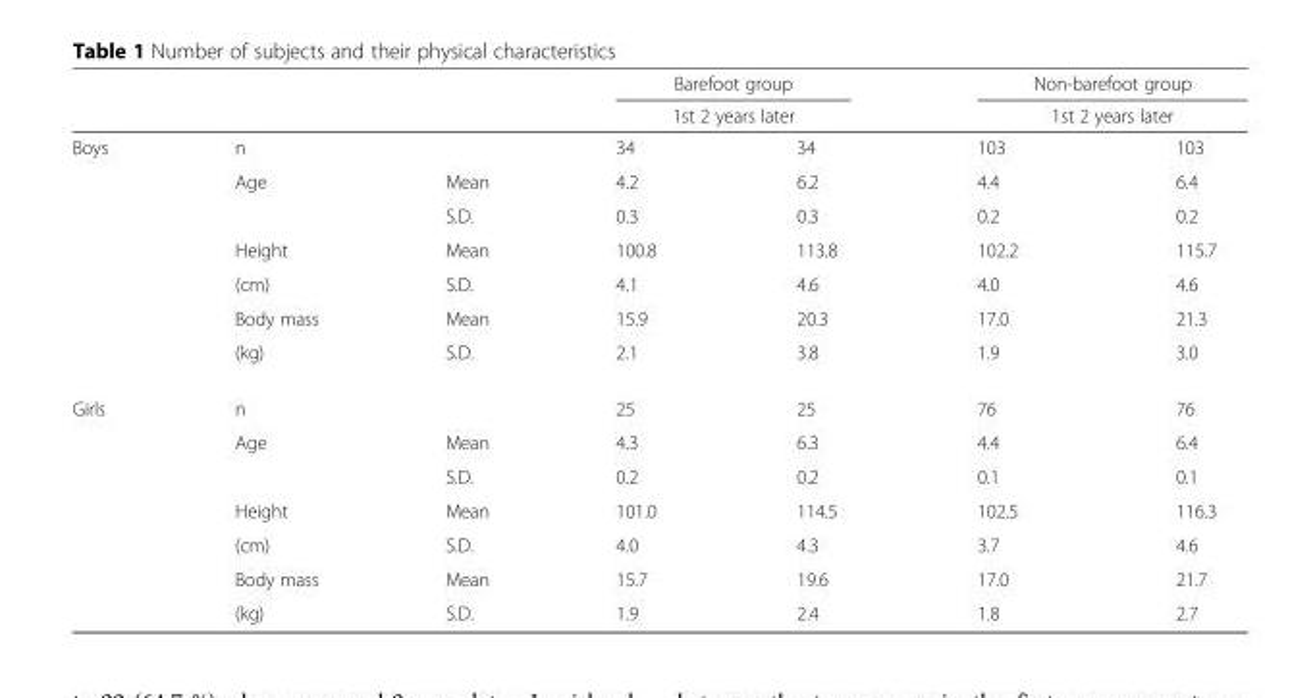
<table><thead><tr><td rowspan="3">Boys</td><td rowspan="2"></td><td rowspan="2"></td><td rowspan="2" colspan="2">Barefoot group 1st 2 years later</td><td rowspan="2" colspan="2">Non-barefoot group 1st 2 years later</td></tr><tr></tr><tr><td colspan="2">n</td><td>34</td><td>34</td><td>103</td><td>103</td></tr></thead><tbody><tr><td></td><td>Age</td><td>Mean</td><td>4.2</td><td>6.2</td><td>4.4</td><td>6.4</td></tr><tr><td></td><td></td><td>S.D.</td><td>0.3</td><td>0.3</td><td>0.2</td><td>0.2</td></tr><tr><td></td><td>Height</td><td>Mean</td><td>100.8</td><td>113.8</td><td>102.2</td><td>115.7</td></tr><tr><td></td><td>(cm)</td><td>S.D.</td><td>4.1</td><td>4.6</td><td>4.0</td><td>4.6</td></tr><tr><td></td><td>Body mass</td><td>Mean</td><td>15.9</td><td>20.3</td><td>17.0</td><td>21.3</td></tr><tr><td></td><td>(kg)</td><td>S.D.</td><td>2.1</td><td>3.8</td><td>1.9</td><td>3.0</td></tr><tr><td rowspan="7">Girls</td><td>n</td><td></td><td>25</td><td>25</td><td>76</td><td>76</td></tr><tr><td>Age</td><td>Mean</td><td>4.3</td><td>6.3</td><td>4.4</td><td>6.4</td></tr><tr><td></td><td>S.D.</td><td>0.2</td><td>0.2</td><td>0.1</td><td>0.1</td></tr><tr><td>Height</td><td>Mean</td><td>101.0</td><td>114.5</td><td>102.5</td><td>116.3</td></tr><tr><td>(cm)</td><td>S.D.</td><td>4.0</td><td>4.3</td><td>3.7</td><td>4.6</td></tr><tr><td>Body mass</td><td>Mean</td><td>15.7</td><td>19.6</td><td>17.0</td><td>21.7</td></tr><tr><td>(kg)</td><td>S.D.</td><td>1.9</td><td>2.4</td><td>1.8</td><td>2.7</td></tr></tbody></table>